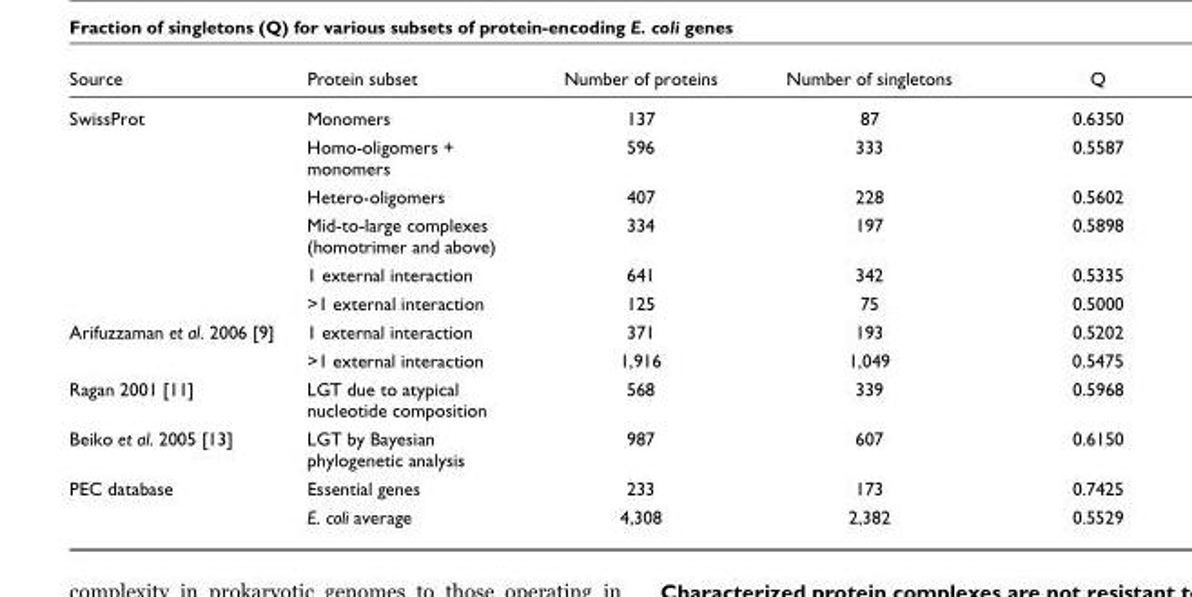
<table><thead><tr><td>Source</td><td>Protein subset</td><td>Number of proteins</td><td>Number of singletons</td><td>Q</td></tr></thead><tbody><tr><td rowspan="6">SwissProt</td><td>Monomers</td><td>137</td><td>87</td><td>0.6350</td></tr><tr><td>Homo-oligomers + monomers</td><td>596</td><td>333</td><td>0.5587</td></tr><tr><td>Hetero-oligomers</td><td>407</td><td>228</td><td>0.5602</td></tr><tr><td>Mid-to-large complexes (homotrimer and above)</td><td>334</td><td>197</td><td>0.5898</td></tr><tr><td>1 external interaction</td><td>641</td><td>342</td><td>0.5335</td></tr><tr><td>&gt;1 external interaction</td><td>125</td><td>75</td><td>0.5000</td></tr><tr><td rowspan="2">Arifuzzaman et al. 2006 [9]</td><td>1 external interaction</td><td>371</td><td>193</td><td>0.5202</td></tr><tr><td>&gt;1 external interaction</td><td>1,916</td><td>1,049</td><td>0.5475</td></tr><tr><td>Ragan 2001 [11]</td><td>LGT due to atypical nucleotide composition</td><td>568</td><td>339</td><td>0.5968</td></tr><tr><td>Beiko et al. 2005 [13]</td><td>LGT by Bayesian phylogenetic analysis</td><td>987</td><td>607</td><td>0.6150</td></tr><tr><td rowspan="2">PEC database</td><td>Essential genes</td><td>233</td><td>173</td><td>0.7425</td></tr><tr><td>E. coli average</td><td>4,308</td><td>2,382</td><td>0.5529</td></tr></tbody></table>